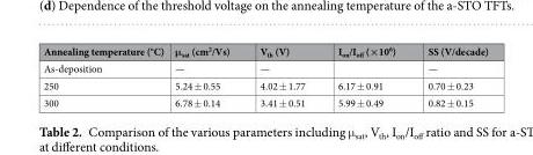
<table><thead><tr><td>Annealing temperature (°C)</td><td>μ<sub>sat</sub> (cm<sup>2</sup>/Vs)</td><td>V<sub>th</sub> (V)</td><td>I<sub>on</sub>/I<sub>off</sub> (×10<sup>6</sup>)</td><td>SS (V/decade)</td></tr></thead><tbody><tr><td>As-deposition</td><td>—</td><td>—</td><td></td><td>—</td></tr><tr><td>250</td><td>5.24 ± 0.55</td><td>4.02 ± 1.77</td><td>6.17 ± 0.91</td><td>0.70 ± 0.23</td></tr><tr><td>300</td><td>6.78 ± 0.14</td><td>3.41 ± 0.51</td><td>5.99 ± 0.49</td><td>0.82 ± 0.15</td></tr></tbody></table>